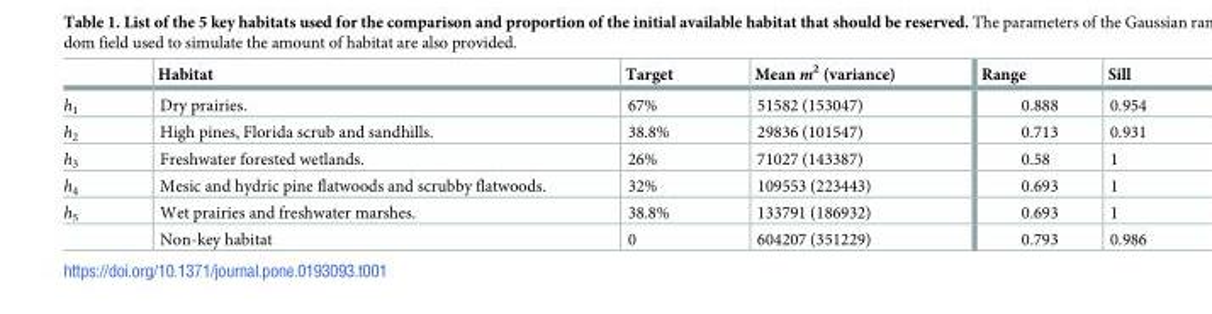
<table><thead><tr><td></td><td>Habitat</td><td>Target</td><td>Mean m<sup>2</sup> (variance)</td><td>Range</td><td>Sill</td></tr></thead><tbody><tr><td>h<sub>1</sub></td><td>Dry prairies.</td><td>67%</td><td>51582 (153047)</td><td>0.888</td><td>0.954</td></tr><tr><td>h<sub>2</sub></td><td>High pines, Florida scrub and sandhills.</td><td>38.8%</td><td>29836 (101547)</td><td>0.713</td><td>0.931</td></tr><tr><td>h<sub>3</sub></td><td>Freshwater forested wetlands.</td><td>26%</td><td>71027 (143387)</td><td>0.58</td><td>1</td></tr><tr><td>h<sub>4</sub></td><td>Mesic and hydric pine flatwoods and scrubby flatwoods.</td><td>32%</td><td>109553 (223443)</td><td>0.693</td><td>1</td></tr><tr><td rowspan="2">h<sub>5</sub></td><td>Wet prairies and freshwater marshes.</td><td>38.8%</td><td>133791 (186932)</td><td>0.693</td><td>1</td></tr><tr><td>Non-key habitat</td><td>0</td><td>604207 (351229)</td><td>0.793</td><td>0.986</td></tr></tbody></table>